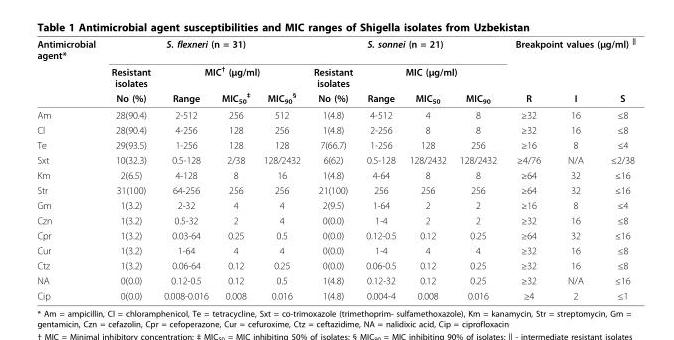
<table><thead><tr><td rowspan="3">Antimicrobial agent*</td><td colspan="4">S. flexneri (n = 31)</td><td colspan="4">S. sonnei (n = 21)</td><td colspan="3">Breakpoint values (μg/ml) <sup>||</sup></td></tr><tr><td rowspan="2">Resistant isolates No (%)</td><td colspan="3">MIC<sup>†</sup> (μg/ml)</td><td rowspan="2">Resistant isolates No (%)</td><td colspan="3">MIC (μg/ml)</td><td rowspan="2">R</td><td rowspan="2">I</td><td rowspan="2">S</td></tr><tr><td>Range</td><td>MIC<sub>50</sub> <sup>‡</sup></td><td>MIC<sub>90</sub> <sup>§</sup></td><td>Range</td><td>MIC<sub>50</sub></td><td>MIC<sub>90</sub></td></tr></thead><tbody><tr><td>Am</td><td>28(90.4)</td><td>2-512</td><td>256</td><td>512</td><td>1(4.8)</td><td>4-512</td><td>4</td><td>8</td><td>≥32</td><td>16</td><td>≤8</td></tr><tr><td>Cl</td><td>28(90.4)</td><td>4-256</td><td>128</td><td>256</td><td>1(4.8)</td><td>2-256</td><td>8</td><td>8</td><td>≥32</td><td>16</td><td>≤8</td></tr><tr><td>Te</td><td>29(93.5)</td><td>1-256</td><td>128</td><td>128</td><td>7(66.7)</td><td>1-256</td><td>128</td><td>256</td><td>≥16</td><td>8</td><td>≤4</td></tr><tr><td>Sxt</td><td>10(32.3)</td><td>0.5-128</td><td>2/38</td><td>128/2432</td><td>6(62)</td><td>0.5-128</td><td>128/2432</td><td>128/2432</td><td>≥4/76</td><td>N/A</td><td>≤2/38</td></tr><tr><td>Km</td><td>2(6.5)</td><td>4-128</td><td>8</td><td>16</td><td>1(4.8)</td><td>4-64</td><td>8</td><td>8</td><td>≥64</td><td>32</td><td>≤16</td></tr><tr><td>Str</td><td>31(100)</td><td>64-256</td><td>256</td><td>256</td><td>21(100)</td><td>256</td><td>256</td><td>256</td><td>≥64</td><td>32</td><td>≤16</td></tr><tr><td>Gm</td><td>1(3.2)</td><td>2-32</td><td>4</td><td>4</td><td>2(9.5)</td><td>1-64</td><td>2</td><td>2</td><td>≥16</td><td>8</td><td>≤4</td></tr><tr><td>Czn</td><td>1(3.2)</td><td>0.5-32</td><td>2</td><td>4</td><td>0(0.0)</td><td>1-4</td><td>2</td><td>2</td><td>≥32</td><td>16</td><td>≤8</td></tr><tr><td>Cpr</td><td>1(3.2)</td><td>0.03-64</td><td>0.25</td><td>0.5</td><td>0(0.0)</td><td>0.12-0.5</td><td>0.12</td><td>0.25</td><td>≥64</td><td>32</td><td>≤16</td></tr><tr><td>Cur</td><td>1(3.2)</td><td>1-64</td><td>4</td><td>4</td><td>0(0.0)</td><td>1-4</td><td>4</td><td>4</td><td>≥32</td><td>16</td><td>≤8</td></tr><tr><td>Ctz</td><td>1(3.2)</td><td>0.06-64</td><td>0.12</td><td>0.25</td><td>0(0.0)</td><td>0.06-0.5</td><td>0.12</td><td>0.25</td><td>≥32</td><td>16</td><td>≤8</td></tr><tr><td>NA</td><td>0(0.0)</td><td>0.12-0.5</td><td>0.12</td><td>0.5</td><td>1(4.8)</td><td>0.12-32</td><td>0.12</td><td>0.25</td><td>≥32</td><td>N/A</td><td>≤16</td></tr><tr><td>Cip</td><td>0(0.0)</td><td>0.008-0.016</td><td>0.008</td><td>0.016</td><td>1(4.8)</td><td>0.004-4</td><td>0.008</td><td>0.016</td><td>≥4</td><td>2</td><td>≤1</td></tr></tbody></table>